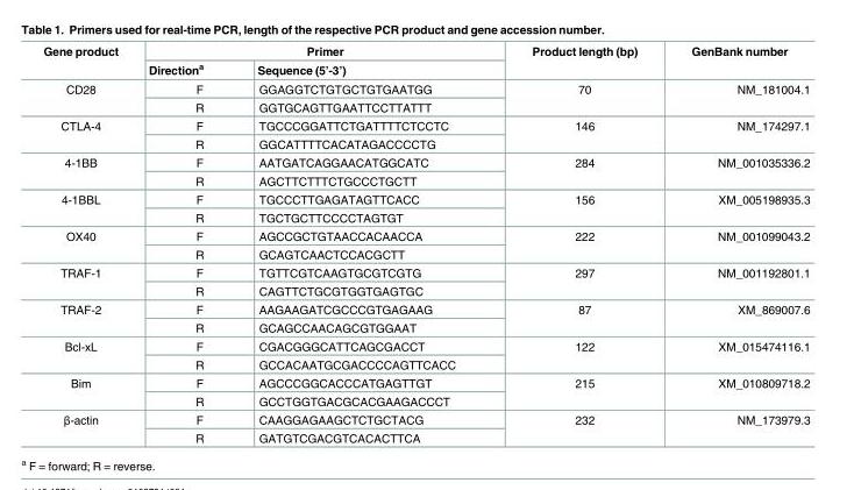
<table><thead><tr><td rowspan="2">Gene product</td><td colspan="2">Primer</td><td rowspan="2">Product length (bp)</td><td rowspan="2">GenBank number</td></tr><tr><td>Direction<sup>a</sup></td><td>Sequence (5’-3’)</td></tr></thead><tbody><tr><td rowspan="2">CD28</td><td>F</td><td>GGAGGTCTGTGCTGTGAATGG</td><td rowspan="2">70</td><td rowspan="2">NM_181004.1</td></tr><tr><td>R</td><td>GGTGCAGTTGAATTCCTTATTT</td></tr><tr><td rowspan="2">CTLA-4</td><td>F</td><td>TGCCCGGATTCTGATTTTCTCCTC</td><td rowspan="2">146</td><td rowspan="2">NM_174297.1</td></tr><tr><td>R</td><td>GGCATTTTCACATAGACCCCTG</td></tr><tr><td rowspan="2">4-1BB</td><td>F</td><td>AATGATCAGGAACATGGCATC</td><td rowspan="2">284</td><td rowspan="2">NM_001035336.2</td></tr><tr><td>R</td><td>AGCTTCTTTCTGCCCTGCTT</td></tr><tr><td rowspan="2">4-1BBL</td><td>F</td><td>TGCCCTTGAGATAGTTCACC</td><td rowspan="2">156</td><td rowspan="2">XM_005198935.3</td></tr><tr><td>R</td><td>TGCTGCTTCCCCTAGTGT</td></tr><tr><td rowspan="2">OX40</td><td>F</td><td>AGCCGCTGTAACCACAACCA</td><td rowspan="2">222</td><td rowspan="2">NM_001099043.2</td></tr><tr><td>R</td><td>GCAGTCAACTCCACGCTT</td></tr><tr><td rowspan="2">TRAF-1</td><td>F</td><td>TGTTCGTCAAGTGCGTCGTG</td><td rowspan="2">297</td><td rowspan="2">NM_001192801.1</td></tr><tr><td>R</td><td>CAGTTCTGCGTGGTGAGTGC</td></tr><tr><td rowspan="2">TRAF-2</td><td>F</td><td>AAGAAGATCGCCCGTGAGAAG</td><td rowspan="2">87</td><td rowspan="2">XM_869007.6</td></tr><tr><td>R</td><td>GCAGCCAACAGCGTGGAAT</td></tr><tr><td rowspan="2">Bcl-xL</td><td>F</td><td>CGACGGGCATTCAGCGACCT</td><td rowspan="2">122</td><td rowspan="2">XM_015474116.1</td></tr><tr><td>R</td><td>GCCACAATGCGACCCCAGTTCACC</td></tr><tr><td rowspan="2">Bim</td><td>F</td><td>AGCCCGGCACCCATGAGTTGT</td><td rowspan="2">215</td><td rowspan="2">XM_010809718.2</td></tr><tr><td>R</td><td>GCCTGGTGACGCACGAAGACCCT</td></tr><tr><td rowspan="2">β-actin</td><td>F</td><td>CAAGGAGAAGCTCTGCTACG</td><td rowspan="2">232</td><td rowspan="2">NM_173979.3</td></tr><tr><td>R</td><td>GATGTCGACGTCACACTTCA</td></tr></tbody></table>